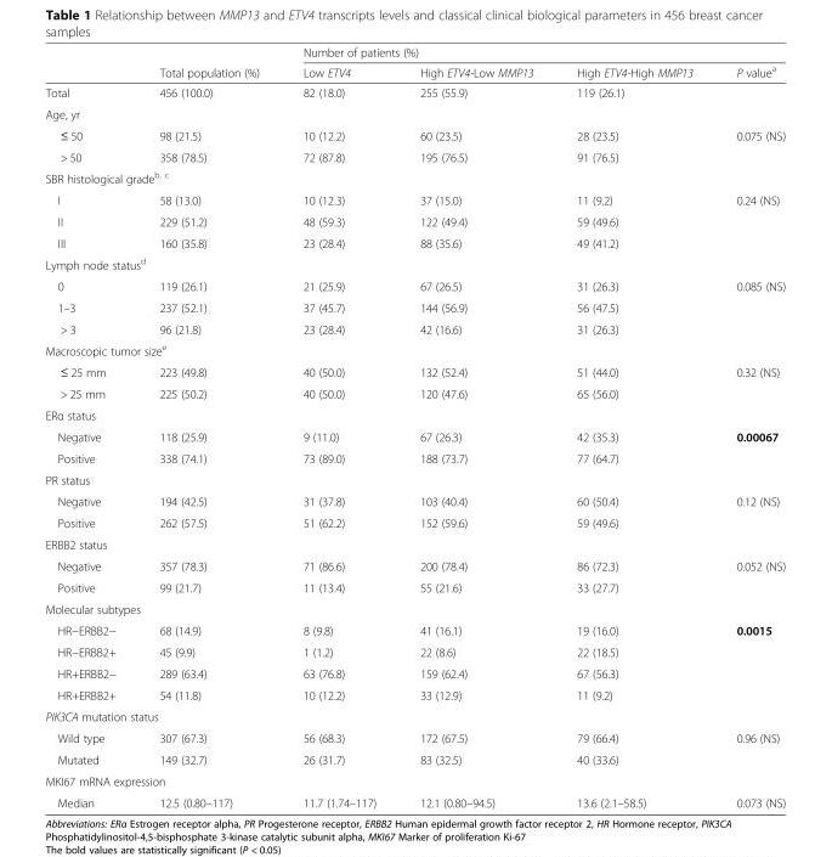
<table><thead><tr><td rowspan="2"></td><td rowspan="2">Total population (%)</td><td colspan="4">Number of patients (%)</td></tr><tr><td>Low ETV4</td><td>High ETV4-Low MMP13</td><td>High ETV4-High MMP13</td><td>P value<sup>a</sup></td></tr></thead><tbody><tr><td>Total</td><td>456 (100.0)</td><td>82 (18.0)</td><td>255 (55.9)</td><td>119 (26.1)</td><td></td></tr><tr><td colspan="6">Age, yr</td></tr><tr><td>≤ 50</td><td>98 (21.5)</td><td>10 (12.2)</td><td>60 (23.5)</td><td>28 (23.5)</td><td>0.075 (NS)</td></tr><tr><td>&gt; 50</td><td>358 (78.5)</td><td>72 (87.8)</td><td>195 (76.5)</td><td>91 (76.5)</td><td></td></tr><tr><td colspan="6">SBR histological grade<sup>b, c</sup></td></tr><tr><td>I</td><td>58 (13.0)</td><td>10 (12.3)</td><td>37 (15.0)</td><td>11 (9.2)</td><td>0.24 (NS)</td></tr><tr><td>II</td><td>229 (51.2)</td><td>48 (59.3)</td><td>122 (49.4)</td><td>59 (49.6)</td><td></td></tr><tr><td>III</td><td>160 (35.8)</td><td>23 (28.4)</td><td>88 (35.6)</td><td>49 (41.2)</td><td></td></tr><tr><td colspan="6">Lymph node status<sup>d</sup></td></tr><tr><td>0</td><td>119 (26.1)</td><td>21 (25.9)</td><td>67 (26.5)</td><td>31 (26.3)</td><td>0.085 (NS)</td></tr><tr><td>1–3</td><td>237 (52.1)</td><td>37 (45.7)</td><td>144 (56.9)</td><td>56 (47.5)</td><td></td></tr><tr><td>&gt; 3</td><td>96 (21.8)</td><td>23 (28.4)</td><td>42 (16.6)</td><td>31 (26.3)</td><td></td></tr><tr><td colspan="6">Macroscopic tumor size<sup>e</sup></td></tr><tr><td>≤ 25 mm</td><td>223 (49.8)</td><td>40 (50.0)</td><td>132 (52.4)</td><td>51 (44.0)</td><td>0.32 (NS)</td></tr><tr><td>&gt; 25 mm</td><td>225 (50.2)</td><td>40 (50.0)</td><td>120 (47.6)</td><td>65 (56.0)</td><td></td></tr><tr><td colspan="6">ERα status</td></tr><tr><td>Negative</td><td>118 (25.9)</td><td>9 (11.0)</td><td>67 (26.3)</td><td>42 (35.3)</td><td>0.00067</td></tr><tr><td>Positive</td><td>338 (74.1)</td><td>73 (89.0)</td><td>188 (73.7)</td><td>77 (64.7)</td><td></td></tr><tr><td colspan="6">PR status</td></tr><tr><td>Negative</td><td>194 (42.5)</td><td>31 (37.8)</td><td>103 (40.4)</td><td>60 (50.4)</td><td>0.12 (NS)</td></tr><tr><td>Positive</td><td>262 (57.5)</td><td>51 (62.2)</td><td>152 (59.6)</td><td>59 (49.6)</td><td></td></tr><tr><td colspan="6">ERBB2 status</td></tr><tr><td>Negative</td><td>357 (78.3)</td><td>71 (86.6)</td><td>200 (78.4)</td><td>86 (72.3)</td><td>0.052 (NS)</td></tr><tr><td>Positive</td><td>99 (21.7)</td><td>11 (13.4)</td><td>55 (21.6)</td><td>33 (27.7)</td><td></td></tr><tr><td colspan="6">Molecular subtypes</td></tr><tr><td>HR−ERBB2−</td><td>68 (14.9)</td><td>8 (9.8)</td><td>41 (16.1)</td><td>19 (16.0)</td><td>0.0015</td></tr><tr><td>HR−ERBB2+</td><td>45 (9.9)</td><td>1 (1.2)</td><td>22 (8.6)</td><td>22 (18.5)</td><td></td></tr><tr><td>HR+ERBB2−</td><td>289 (63.4)</td><td>63 (76.8)</td><td>159 (62.4)</td><td>67 (56.3)</td><td></td></tr><tr><td>HR+ERBB2+</td><td>54 (11.8)</td><td>10 (12.2)</td><td>33 (12.9)</td><td>11 (9.2)</td><td></td></tr><tr><td colspan="6">PIK3CA mutation status</td></tr><tr><td>Wild type</td><td>307 (67.3)</td><td>56 (68.3)</td><td>172 (67.5)</td><td>79 (66.4)</td><td>0.96 (NS)</td></tr><tr><td>Mutated</td><td>149 (32.7)</td><td>26 (31.7)</td><td>83 (32.5)</td><td>40 (33.6)</td><td></td></tr><tr><td colspan="6">MKI67 mRNA expression</td></tr><tr><td>Median</td><td>12.5 (0.80–117)</td><td>11.7 (1.74–117)</td><td>12.1 (0.80–94.5)</td><td>13.6 (2.1–58.5)</td><td>0.073 (NS)</td></tr></tbody></table>